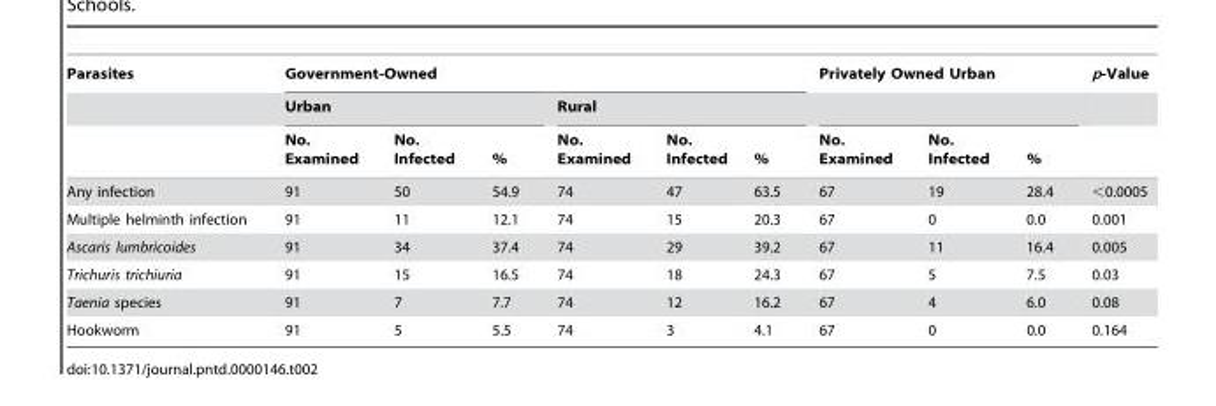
<table><thead><tr><td rowspan="3">Parasites</td><td colspan="6">Government-Owned</td><td colspan="3">Privately Owned Urban</td><td rowspan="3">p-Value</td></tr><tr><td colspan="3">Urban</td><td colspan="3">Rural</td><td rowspan="2">No. Examined</td><td rowspan="2">No. Infected</td><td rowspan="2">%</td></tr><tr><td>No. Examined</td><td>No. Infected</td><td>%</td><td>No. Examined</td><td>No. Infected</td><td>%</td></tr></thead><tbody><tr><td>Any infection</td><td>91</td><td>50</td><td>54.9</td><td>74</td><td>47</td><td>63.5</td><td>67</td><td>19</td><td>28.4</td><td>&lt;0.0005</td></tr><tr><td>Multiple helminth infection</td><td>91</td><td>11</td><td>12.1</td><td>74</td><td>15</td><td>20.3</td><td>67</td><td>0</td><td>0.0</td><td>0.001</td></tr><tr><td>Ascaris lumbricoides</td><td>91</td><td>34</td><td>37.4</td><td>74</td><td>29</td><td>39.2</td><td>67</td><td>11</td><td>16.4</td><td>0.005</td></tr><tr><td>Trichuris trichiuria</td><td>91</td><td>15</td><td>16.5</td><td>74</td><td>18</td><td>24.3</td><td>67</td><td>5</td><td>7.5</td><td>0.03</td></tr><tr><td>Taenia species</td><td>91</td><td>7</td><td>7.7</td><td>74</td><td>12</td><td>16.2</td><td>67</td><td>4</td><td>6.0</td><td>0.08</td></tr><tr><td>Hookworm</td><td>91</td><td>5</td><td>5.5</td><td>74</td><td>3</td><td>4.1</td><td>67</td><td>0</td><td>0.0</td><td>0.164</td></tr></tbody></table>